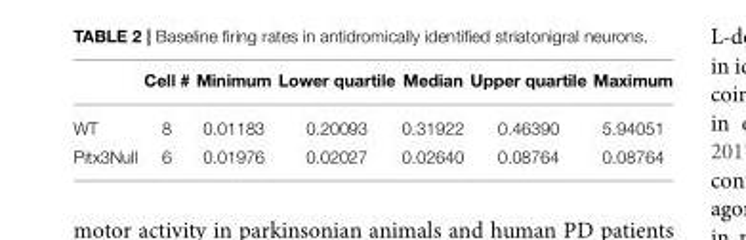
<table><thead><tr><td></td><td>Cell #</td><td>Minimum</td><td>Lower quartile</td><td>Median</td><td>Upper quartile</td><td>Maximum</td></tr></thead><tbody><tr><td>WT</td><td>8</td><td>0.01183</td><td>0.20093</td><td>0.31922</td><td>0.46390</td><td>5.94051</td></tr><tr><td>Pitx3Null</td><td>6</td><td>0.01976</td><td>0.02027</td><td>0.02640</td><td>0.08764</td><td>0.08764</td></tr></tbody></table>